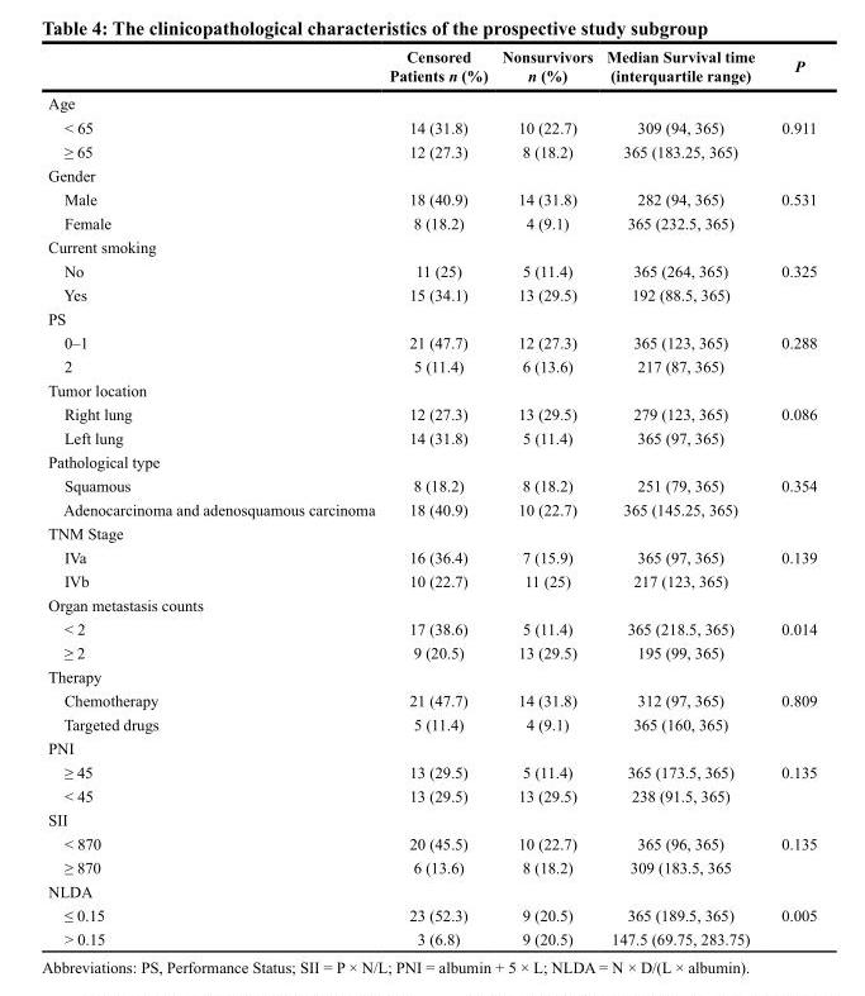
<table><thead><tr><td></td><td>Censored Patients n (%)</td><td>Nonsurvivors n (%)</td><td>Median Survival time (interquartile range)</td><td>P</td></tr></thead><tbody><tr><td colspan="5">Age</td></tr><tr><td>&lt; 65</td><td>14 (31.8)</td><td>10 (22.7)</td><td>309 (94, 365)</td><td>0.911</td></tr><tr><td>≥ 65</td><td>12 (27.3)</td><td>8 (18.2)</td><td>365 (183.25, 365)</td><td></td></tr><tr><td colspan="5">Gender</td></tr><tr><td>Male</td><td>18 (40.9)</td><td>14 (31.8)</td><td>282 (94, 365)</td><td>0.531</td></tr><tr><td>Female</td><td>8 (18.2)</td><td>4 (9.1)</td><td>365 (232.5, 365)</td><td></td></tr><tr><td colspan="5">Current smoking</td></tr><tr><td>No</td><td>11 (25)</td><td>5 (11.4)</td><td>365 (264, 365)</td><td>0.325</td></tr><tr><td>Yes</td><td>15 (34.1)</td><td>13 (29.5)</td><td>192 (88.5, 365)</td><td></td></tr><tr><td colspan="5">PS</td></tr><tr><td>0–1</td><td>21 (47.7)</td><td>12 (27.3)</td><td>365 (123, 365)</td><td>0.288</td></tr><tr><td>2</td><td>5 (11.4)</td><td>6 (13.6)</td><td>217 (87, 365)</td><td></td></tr><tr><td colspan="5">Tumor location</td></tr><tr><td>Right lung</td><td>12 (27.3)</td><td>13 (29.5)</td><td>279 (123, 365)</td><td>0.086</td></tr><tr><td>Left lung</td><td>14 (31.8)</td><td>5 (11.4)</td><td>365 (97, 365)</td><td></td></tr><tr><td colspan="5">Pathological type</td></tr><tr><td>Squamous</td><td>8 (18.2)</td><td>8 (18.2)</td><td>251 (79, 365)</td><td>0.354</td></tr><tr><td>Adenocarcinoma and adenosquamous carcinoma</td><td>18 (40.9)</td><td>10 (22.7)</td><td>365 (145.25, 365)</td><td></td></tr><tr><td colspan="5">TNM Stage</td></tr><tr><td>IVa</td><td>16 (36.4)</td><td>7 (15.9)</td><td>365 (97, 365)</td><td>0.139</td></tr><tr><td>IVb</td><td>10 (22.7)</td><td>11 (25)</td><td>217 (123, 365)</td><td></td></tr><tr><td colspan="5">Organ metastasis counts</td></tr><tr><td>&lt; 2</td><td>17 (38.6)</td><td>5 (11.4)</td><td>365 (218.5, 365)</td><td>0.014</td></tr><tr><td>≥ 2</td><td>9 (20.5)</td><td>13 (29.5)</td><td>195 (99, 365)</td><td></td></tr><tr><td colspan="5">Therapy</td></tr><tr><td>Chemotherapy</td><td>21 (47.7)</td><td>14 (31.8)</td><td>312 (97, 365)</td><td>0.809</td></tr><tr><td>Targeted drugs</td><td>5 (11.4)</td><td>4 (9.1)</td><td>365 (160, 365)</td><td></td></tr><tr><td colspan="5">PNI</td></tr><tr><td>≥ 45</td><td>13 (29.5)</td><td>5 (11.4)</td><td>365 (173.5, 365)</td><td>0.135</td></tr><tr><td>&lt; 45</td><td>13 (29.5)</td><td>13 (29.5)</td><td>238 (91.5, 365)</td><td></td></tr><tr><td colspan="5">SII</td></tr><tr><td>&lt; 870</td><td>20 (45.5)</td><td>10 (22.7)</td><td>365 (96, 365)</td><td>0.135</td></tr><tr><td>≥ 870</td><td>6 (13.6)</td><td>8 (18.2)</td><td>309 (183.5, 365</td><td></td></tr><tr><td colspan="5">NLDA</td></tr><tr><td>≤ 0.15</td><td>23 (52.3)</td><td>9 (20.5)</td><td>365 (189.5, 365)</td><td>0.005</td></tr><tr><td>&gt; 0.15</td><td>3 (6.8)</td><td>9 (20.5)</td><td>147.5 (69.75, 283.75)</td><td></td></tr></tbody></table>